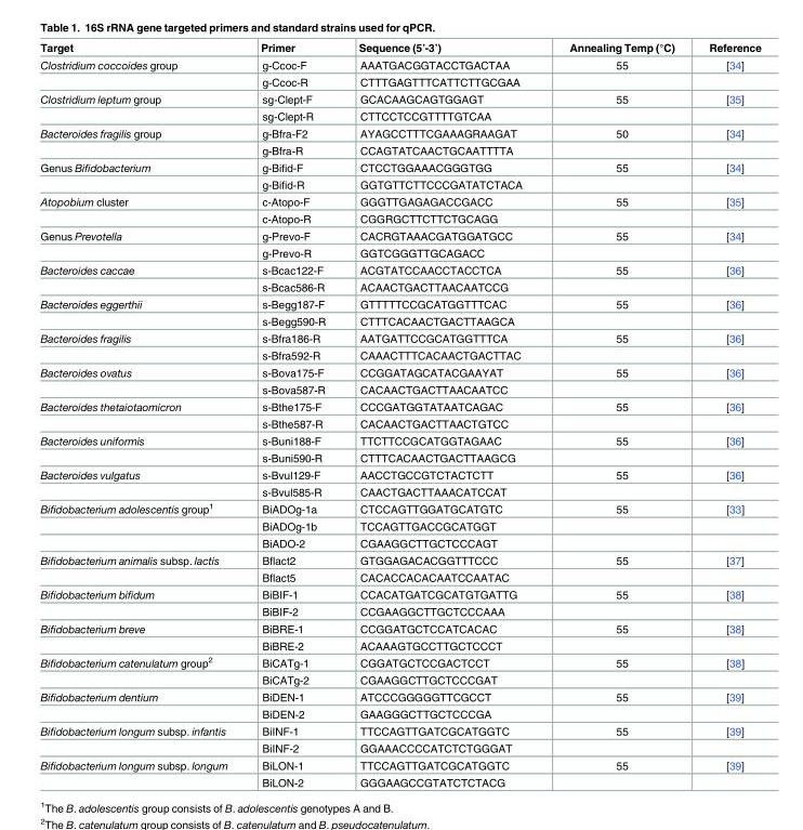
<table><thead><tr><td>Target</td><td>Primer</td><td>Sequence (5’-3’)</td><td>Annealing Temp (°C)</td><td>Reference</td></tr></thead><tbody><tr><td rowspan="2">Clostridium coccoides group</td><td>g-Ccoc-F</td><td>AAATGACGGTACCTGACTAA</td><td>55</td><td>[34]</td></tr><tr><td>g-Ccoc-R</td><td>CTTTGAGTTTCATTCTTGCGAA</td><td></td><td></td></tr><tr><td rowspan="2">Clostridium leptum group</td><td>sg-Clept-F</td><td>GCACAAGCAGTGGAGT</td><td>55</td><td>[35]</td></tr><tr><td>sg-Clept-R</td><td>CTTCCTCCGTTTTGTCAA</td><td></td><td></td></tr><tr><td rowspan="2">Bacteroides fragilis group</td><td>g-Bfra-F2</td><td>AYAGCCTTTCGAAAGRAAGAT</td><td>50</td><td>[34]</td></tr><tr><td>g-Bfra-R</td><td>CCAGTATCAACTGCAATTTTA</td><td></td><td></td></tr><tr><td rowspan="2">Genus Bifidobacterium</td><td>g-Bifid-F</td><td>CTCCTGGAAACGGGTGG</td><td>55</td><td>[34]</td></tr><tr><td>g-Bifid-R</td><td>GGTGTTCTTCCCGATATCTACA</td><td></td><td></td></tr><tr><td rowspan="2">Atopobium cluster</td><td>c-Atopo-F</td><td>GGGTTGAGAGACCGACC</td><td>55</td><td>[35]</td></tr><tr><td>c-Atopo-R</td><td>CGGRGCTTCTTCTGCAGG</td><td></td><td></td></tr><tr><td rowspan="2">Genus Prevotella</td><td>g-Prevo-F</td><td>CACRGTAAACGATGGATGCC</td><td>55</td><td>[34]</td></tr><tr><td>g-Prevo-R</td><td>GGTCGGGTTGCAGACC</td><td></td><td></td></tr><tr><td rowspan="2">Bacteroides caccae</td><td>s-Bcac122-F</td><td>ACGTATCCAACCTACCTCA</td><td>55</td><td>[36]</td></tr><tr><td>s-Bcac586-R</td><td>ACAACTGACTTAACAATCCG</td><td></td><td></td></tr><tr><td rowspan="2">Bacteroides eggerthii</td><td>s-Begg187-F</td><td>GTTTTTCCGCATGGTTTCAC</td><td>55</td><td>[36]</td></tr><tr><td>s-Begg590-R</td><td>CTTTCACAACTGACTTAAGCA</td><td></td><td></td></tr><tr><td rowspan="2">Bacteroides fragilis</td><td>s-Bfra186-R</td><td>AATGATTCCGCATGGTTTCA</td><td>55</td><td>[36]</td></tr><tr><td>s-Bfra592-R</td><td>CAAACTTTCACAACTGACTTAC</td><td></td><td></td></tr><tr><td rowspan="2">Bacteroides ovatus</td><td>s-Bova175-F</td><td>CCGGATAGCATACGAAYAT</td><td>55</td><td>[36]</td></tr><tr><td>s-Bova587-R</td><td>CACAACTGACTTAACAATCC</td><td></td><td></td></tr><tr><td rowspan="2">Bacteroides thetaiotaomicron</td><td>s-Bthe175-F</td><td>CCCGATGGTATAATCAGAC</td><td>55</td><td>[36]</td></tr><tr><td>s-Bthe587-R</td><td>CACAACTGACTTAACTGTCC</td><td></td><td></td></tr><tr><td rowspan="2">Bacteroides uniformis</td><td>s-Buni188-F</td><td>TTCTTCCGCATGGTAGAAC</td><td>55</td><td>[36]</td></tr><tr><td>s-Buni590-R</td><td>CTTTCACAACTGACTTAAGCG</td><td></td><td></td></tr><tr><td rowspan="2">Bacteroides vulgatus</td><td>s-Bvul129-F</td><td>AACCTGCCGTCTACTCTT</td><td>55</td><td>[36]</td></tr><tr><td>s-Bvul585-R</td><td>CAACTGACTTAAACATCCAT</td><td></td><td></td></tr><tr><td rowspan="3">Bifidobacterium adolescentis group<sup>1</sup></td><td>BiADOg-1a</td><td>CTCCAGTTGGATGCATGTC</td><td>55</td><td>[33]</td></tr><tr><td>BiADOg-1b</td><td>TCCAGTTGACCGCATGGT</td><td></td><td></td></tr><tr><td>BiADO-2</td><td>CGAAGGCTTGCTCCCAGT</td><td></td><td></td></tr><tr><td rowspan="2">Bifidobacterium animalis subsp. lactis</td><td>Bflact2</td><td>GTGGAGACACGGTTTCCC</td><td>55</td><td>[37]</td></tr><tr><td>Bflact5</td><td>CACACCACACAATCCAATAC</td><td></td><td></td></tr><tr><td rowspan="2">Bifidobacterium bifidum</td><td>BiBIF-1</td><td>CCACATGATCGCATGTGATTG</td><td>55</td><td>[38]</td></tr><tr><td>BiBIF-2</td><td>CCGAAGGCTTGCTCCCAAA</td><td></td><td></td></tr><tr><td rowspan="2">Bifidobacterium breve</td><td>BiBRE-1</td><td>CCGGATGCTCCATCACAC</td><td>55</td><td>[38]</td></tr><tr><td>BiBRE-2</td><td>ACAAAGTGCCTTGCTCCCT</td><td></td><td></td></tr><tr><td rowspan="2">Bifidobacterium catenulatum group<sup>2</sup></td><td>BiCATg-1</td><td>CGGATGCTCCGACTCCT</td><td>55</td><td>[38]</td></tr><tr><td>BiCATg-2</td><td>CGAAGGCTTGCTCCCGAT</td><td></td><td></td></tr><tr><td rowspan="2">Bifidobacterium dentium</td><td>BiDEN-1</td><td>ATCCCGGGGGTTCGCCT</td><td>55</td><td>[39]</td></tr><tr><td>BiDEN-2</td><td>GAAGGGCTTGCTCCCGA</td><td></td><td></td></tr><tr><td rowspan="2">Bifidobacterium longum subsp. infantis</td><td>BiINF-1</td><td>TTCCAGTTGATCGCATGGTC</td><td>55</td><td>[39]</td></tr><tr><td>BiINF-2</td><td>GGAAACCCCATCTCTGGGAT</td><td></td><td></td></tr><tr><td rowspan="2">Bifidobacterium longum subsp. longum</td><td>BiLON-1</td><td>TTCCAGTTGATCGCATGGTC</td><td>55</td><td>[39]</td></tr><tr><td>BiLON-2</td><td>GGGAAGCCGTATCTCTACG</td><td></td><td></td></tr></tbody></table>